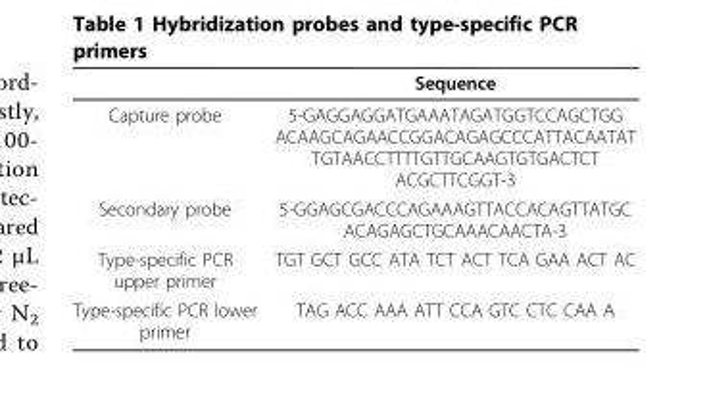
<table><thead><tr><td></td><td>Sequence</td></tr></thead><tbody><tr><td>Capture probe</td><td>5-GAGGAGGATGAAATAGATGGTCCAGCTGG ACAAGCAGAACCGGACAGAGCCCATTACAATAT TGTAACCTTTTGTTGCAAGTGTGACTCT ACGCTTCGGT-3</td></tr><tr><td>Secondary probe</td><td>5-GGAGCGACCCAGAAAGTTACCACAGTTATGC ACAGAGCTGCAAACAACTA-3</td></tr><tr><td>Type-specific PCR upper primer</td><td>TGT GCT GCC ATA TCT ACT TCA GAA ACT AC</td></tr><tr><td>Type-specific PCR lower primer</td><td>TAG ACC AAA ATT CCA GTC CTC CAA A</td></tr></tbody></table>